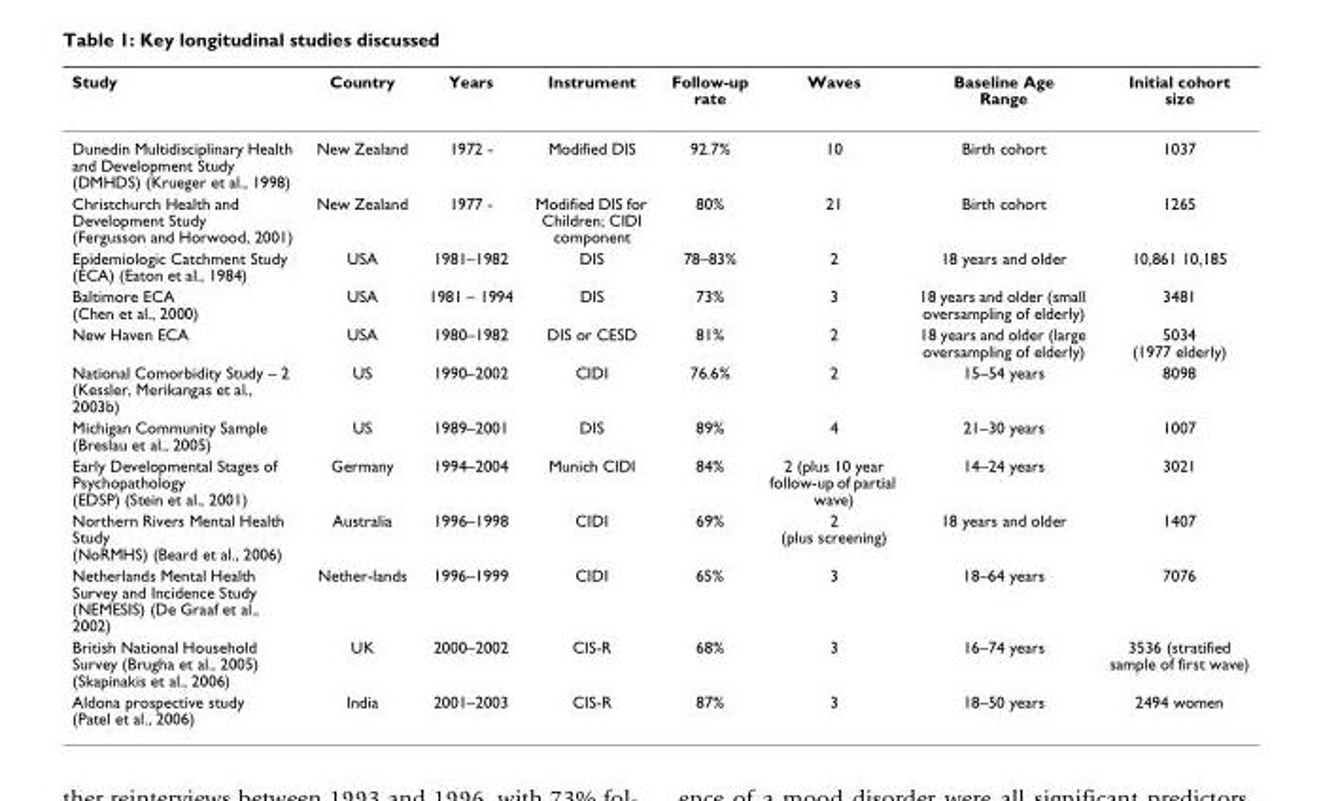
<table><thead><tr><td>Study</td><td>Country</td><td>Years</td><td>Instrument</td><td>Follow-up rate</td><td>Waves</td><td>Baseline Age Range</td><td>Initial cohort size</td></tr></thead><tbody><tr><td>Dunedin Multidisciplinary Health and Development Study (DMHDS) (Krueger et al., 1998)</td><td>New Zealand</td><td>1972 -</td><td>Modified DIS</td><td>92.7%</td><td>10</td><td>Birth cohort</td><td>1037</td></tr><tr><td>Christchurch Health and Development Study (Fergusson and Horwood, 2001)</td><td>New Zealand</td><td>1977 -</td><td>Modified DIS for Children; CIDI component</td><td>80%</td><td>21</td><td>Birth cohort</td><td>1265</td></tr><tr><td>Epidemiologic Catchment Study (ECA) (Eaton et al., 1984)</td><td>USA</td><td>1981–1982</td><td>DIS</td><td>78–83%</td><td>2</td><td>18 years and older</td><td>10,861 10,185</td></tr><tr><td>Baltimore ECA (Chen et al., 2000)</td><td>USA</td><td>1981 – 1994</td><td>DIS</td><td>73%</td><td>3</td><td>18 years and older (small oversampling of elderly)</td><td>3481</td></tr><tr><td>New Haven ECA</td><td>USA</td><td>1980–1982</td><td>DIS or CESD</td><td>81%</td><td>2</td><td>18 years and older (large oversampling of elderly)</td><td>5034 (1977 elderly)</td></tr><tr><td>National Comorbidity Study – 2 (Kessler, Merikangas et al., 2003b)</td><td>US</td><td>1990–2002</td><td>CIDI</td><td>76.6%</td><td>2</td><td>15–54 years</td><td>8098</td></tr><tr><td>Michigan Community Sample (Breslau et al., 2005)</td><td>US</td><td>1989–2001</td><td>DIS</td><td>89%</td><td>4</td><td>21–30 years</td><td>1007</td></tr><tr><td>Early Developmental Stages of Psychopathology (EDSP) (Stein et al., 2001)</td><td>Germany</td><td>1994–2004</td><td>Munich CIDI</td><td>84%</td><td>2 (plus 10 year follow-up of partial wave)</td><td>14–24 years</td><td>3021</td></tr><tr><td>Northern Rivers Mental Health Study (NoRMHS) (Beard et al., 2006)</td><td>Australia</td><td>1996–1998</td><td>CIDI</td><td>69%</td><td>2 (plus screening)</td><td>18 years and older</td><td>1407</td></tr><tr><td>Netherlands Mental Health Survey and Incidence Study (NEMESIS) (De Graaf et al., 2002)</td><td>Nether-lands</td><td>1996–1999</td><td>CIDI</td><td>65%</td><td>3</td><td>18–64 years</td><td>7076</td></tr><tr><td>British National Household Survey (Brugha et al., 2005) (Skapinakis et al., 2006)</td><td>UK</td><td>2000–2002</td><td>CIS-R</td><td>68%</td><td>3</td><td>16–74 years</td><td>3536 (stratified sample of first wave)</td></tr><tr><td>Aldona prospective study (Patel et al., 2006)</td><td>India</td><td>2001–2003</td><td>CIS-R</td><td>87%</td><td>3</td><td>18–50 years</td><td>2494 women</td></tr></tbody></table>